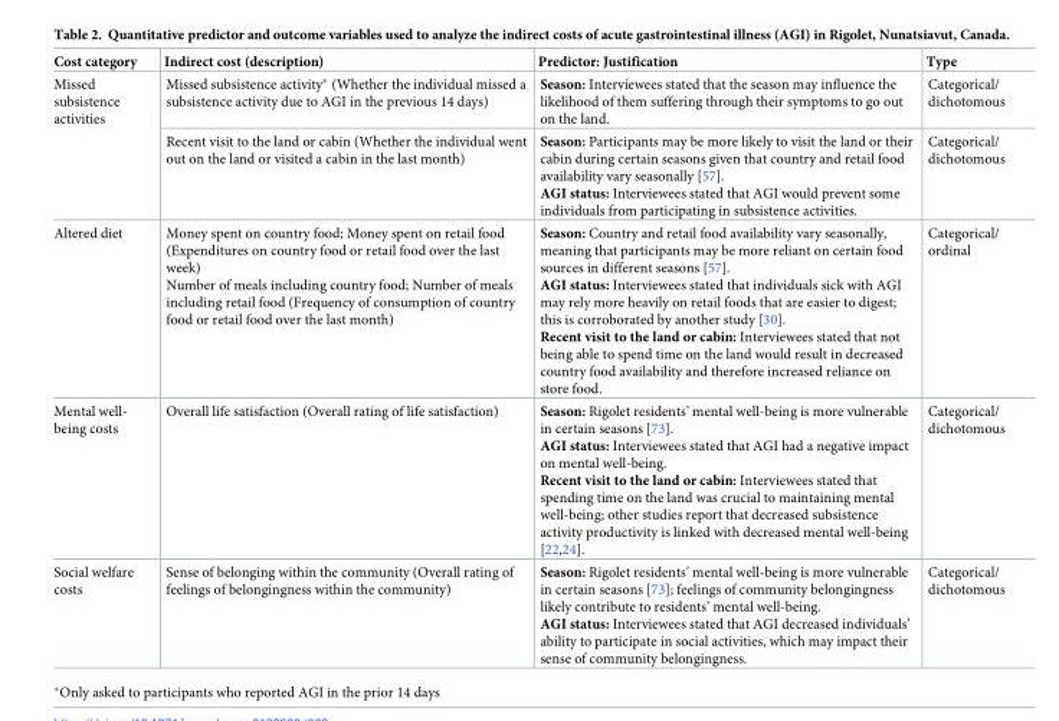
<table><thead><tr><td>Cost category</td><td>Indirect cost (description)</td><td>Predictor: Justification</td><td>Type</td></tr></thead><tbody><tr><td rowspan="2">Missed subsistence activities</td><td>Missed subsistence activity* (Whether the individual missed a subsistence activity due to AGI in the previous 14 days)</td><td>Season: Interviewees stated that the season may influence the likelihood of them suffering through their symptoms to go out on the land.</td><td>Categorical/ dichotomous</td></tr><tr><td>Recent visit to the land or cabin (Whether the individual went out on the land or visited a cabin in the last month)</td><td>Season: Participants may be more likely to visit the land or their cabin during certain seasons given that country and retail food availability vary seasonally [57]. AGI status: Interviewees stated that AGI would prevent some individuals from participating in subsistence activities.</td><td>Categorical/ dichotomous</td></tr><tr><td>Altered diet</td><td>Money spent on country food; Money spent on retail food (Expenditures on country food or retail food over the last week) Number of meals including country food; Number of meals including retail food (Frequency of consumption of country food or retail food over the last month)</td><td>Season: Country and retail food availability vary seasonally, meaning that participants may be more reliant on certain food sources in different seasons [57]. AGI status: Interviewees stated that individuals sick with AGI may rely more heavily on retail foods that are easier to digest; this is corroborated by another study [30]. Recent visit to the land or cabin: Interviewees stated that not being able to spend time on the land would result in decreased country food availability and therefore increased reliance on store food.</td><td>Categorical/ ordinal</td></tr><tr><td>Mental well- being costs</td><td>Overall life satisfaction (Overall rating of life satisfaction)</td><td>Season: Rigolet residents’ mental well-being is more vulnerable in certain seasons [73]. AGI status: Interviewees stated that AGI had a negative impact on mental well-being. Recent visit to the land or cabin: Interviewees stated that spending time on the land was crucial to maintaining mental well-being; other studies report that decreased subsistence activity productivity is linked with decreased mental well-being [22,24].</td><td>Categorical/ dichotomous</td></tr><tr><td>Social welfare costs</td><td>Sense of belonging within the community (Overall rating of feelings of belongingness within the community)</td><td>Season: Rigolet residents’ mental well-being is more vulnerable in certain seasons [73]; feelings of community belongingness likely contribute to residents’ mental well-being. AGI status: Interviewees stated that AGI decreased individuals’ ability to participate in social activities, which may impact their sense of community belongingness.</td><td>Categorical/ dichotomous</td></tr></tbody></table>